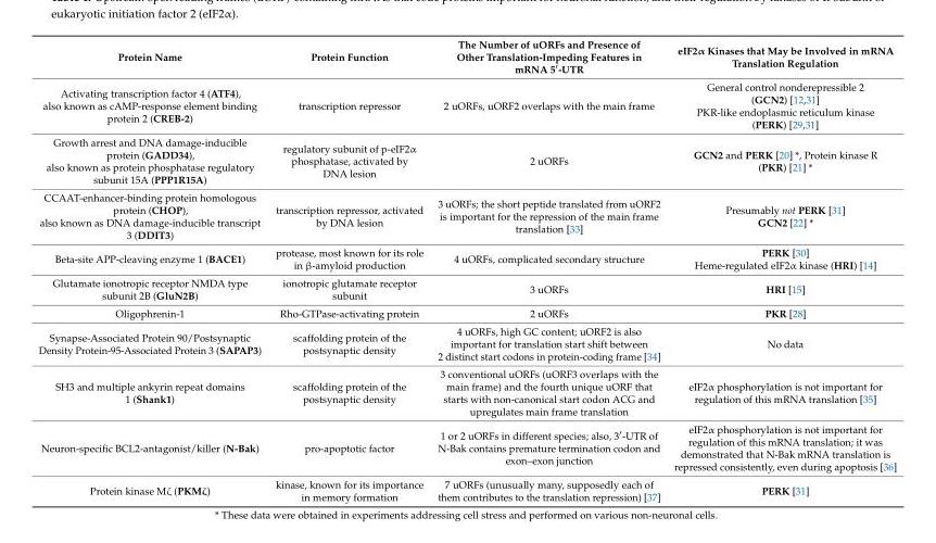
<table><thead><tr><td>Protein Name</td><td>Protein Function</td><td>The Number of uORFs and Presence of Other Translation-Impeding Features in mRNA 5′-UTR</td><td>eIF2α Kinases that May be Involved in mRNA Translation Regulation</td></tr></thead><tbody><tr><td>Activating transcription factor 4 (ATF4), also known as cAMP-response element binding protein 2 (CREB-2)</td><td>transcription repressor</td><td>2 uORFs, uORF2 overlaps with the main frame</td><td>General control nonderepressible 2 (GCN2) [12,31] PKR-like endoplasmic reticulum kinase (PERK) [29,31]</td></tr><tr><td>Growth arrest and DNA damage-inducible protein (GADD34), also known as protein phosphatase regulatory subunit 15A (PPP1R15A)</td><td>regulatory subunit of p-eIF2α phosphatase, activated by DNA lesion</td><td>2 uORFs</td><td>GCN2 and PERK [20] *, Protein kinase R (PKR) [21] *</td></tr><tr><td>CCAAT-enhancer-binding protein homologous protein (CHOP), also known as DNA damage-inducible transcript 3 (DDIT3)</td><td>transcription repressor, activated by DNA lesion</td><td>3 uORFs; the short peptide translated from uORF2 is important for the repression of the main frame translation [33]</td><td>Presumably not PERK [31] GCN2 [22] *</td></tr><tr><td>Beta-site APP-cleaving enzyme 1 (BACE1)</td><td>protease, most known for its role in β-amyloid production</td><td>4 uORFs, complicated secondary structure</td><td>PERK [30] Heme-regulated eIF2α kinase (HRI) [14]</td></tr><tr><td>Glutamate ionotropic receptor NMDA type subunit 2B (GluN2B)</td><td>ionotropic glutamate receptor subunit</td><td>3 uORFs</td><td>HRI [15]</td></tr><tr><td>Oligophrenin-1</td><td>Rho-GTPase-activating protein</td><td>2 uORFs</td><td>PKR [28]</td></tr><tr><td>Synapse-Associated Protein 90/Postsynaptic Density Protein-95-Associated Protein 3 (SAPAP3)</td><td>scaffolding protein of the postsynaptic density</td><td>4 uORFs, high GC content; uORF2 is also important for translation start shift between 2 distinct start codons in protein-coding frame [34]</td><td>No data</td></tr><tr><td>SH3 and multiple ankyrin repeat domains 1 (Shank1)</td><td>scaffolding protein of the postsynaptic density</td><td>3 conventional uORFs (uORF3 overlaps with the main frame) and the fourth unique uORF that starts with non-canonical start codon ACG and upregulates main frame translation</td><td>eIF2α phosphorylation is not important for regulation of this mRNA translation [35]</td></tr><tr><td>Neuron-specific BCL2-antagonist/killer (N-Bak)</td><td>pro-apoptotic factor</td><td>1 or 2 uORFs in different species; also, 3′-UTR of N-Bak contains premature termination codon and exon–exon junction</td><td>eIF2α phosphorylation is not important for regulation of this mRNA translation; it was demonstrated that N-Bak mRNA translation is repressed consistently, even during apoptosis [36]</td></tr><tr><td>Protein kinase Mζ (PKMζ)</td><td>kinase, known for its importance in memory formation</td><td>7 uORFs (unusually many, supposedly each of them contributes to the translation repression) [37]</td><td>PERK [31]</td></tr></tbody></table>